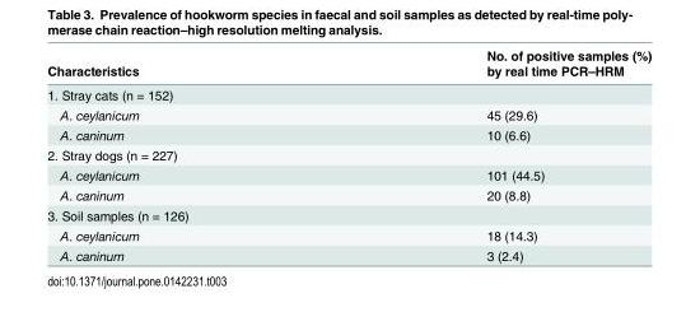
<table><thead><tr><td rowspan="2">Characteristics</td><td rowspan="2">No. of positive samples (%) by real time PCR–HRM</td></tr><tr></tr></thead><tbody><tr><td colspan="2">1. Stray cats (n = 152)</td></tr><tr><td>A. ceylanicum</td><td>45 (29.6)</td></tr><tr><td>A. caninum</td><td>10 (6.6)</td></tr><tr><td colspan="2">2. Stray dogs (n = 227)</td></tr><tr><td>A. ceylanicum</td><td>101 (44.5)</td></tr><tr><td>A. caninum</td><td>20 (8.8)</td></tr><tr><td colspan="2">3. Soil samples (n = 126)</td></tr><tr><td>A. ceylanicum</td><td>18 (14.3)</td></tr><tr><td>A. caninum</td><td>3 (2.4)</td></tr></tbody></table>